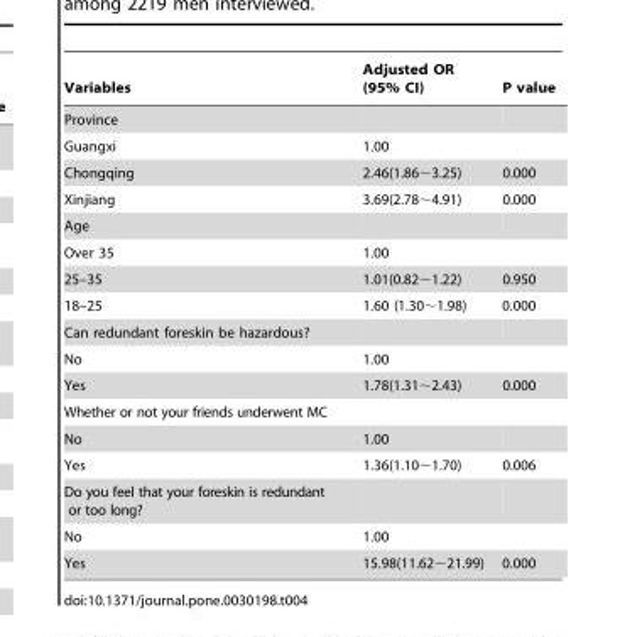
<table><thead><tr><td>Variables</td><td>Adjusted OR (95% CI)</td><td>P value</td></tr></thead><tbody><tr><td colspan="3">Province</td></tr><tr><td>Guangxi</td><td>1.00</td><td></td></tr><tr><td>Chongqing</td><td>2.46(1.86∼3.25)</td><td>0.000</td></tr><tr><td>Xinjiang</td><td>3.69(2.78∼4.91)</td><td>0.000</td></tr><tr><td colspan="3">Age</td></tr><tr><td>Over 35</td><td>1.00</td><td></td></tr><tr><td>25–35</td><td>1.01(0.82∼1.22)</td><td>0.950</td></tr><tr><td>18–25</td><td>1.60 (1.30∼1.98)</td><td>0.000</td></tr><tr><td colspan="3">Can redundant foreskin be hazardous?</td></tr><tr><td>No</td><td>1.00</td><td></td></tr><tr><td>Yes</td><td>1.78(1.31∼2.43)</td><td>0.000</td></tr><tr><td colspan="3">Whether or not your friends underwent MC</td></tr><tr><td>No</td><td>1.00</td><td></td></tr><tr><td>Yes</td><td>1.36(1.10∼1.70)</td><td>0.006</td></tr><tr><td colspan="3">Do you feel that your foreskin is redundant or too long?</td></tr><tr><td>No</td><td>1.00</td><td></td></tr><tr><td>Yes</td><td>15.98(11.62∼21.99)</td><td>0.000</td></tr></tbody></table>